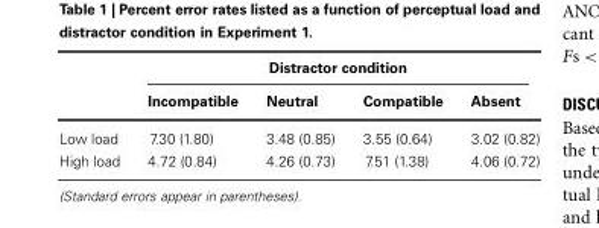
<table><thead><tr><td rowspan="2"></td><td colspan="4">Distractor condition</td></tr><tr><td>Incompatible</td><td>Neutral</td><td>Compatible</td><td>Absent</td></tr></thead><tbody><tr><td>Low load</td><td>7.30 (1.80)</td><td>3.48 (0.85)</td><td>3.55 (0.64)</td><td>3.02 (0.82)</td></tr><tr><td>High load</td><td>4.72 (0.84)</td><td>4.26 (0.73)</td><td>7.51 (1.38)</td><td>4.06 (0.72)</td></tr></tbody></table>